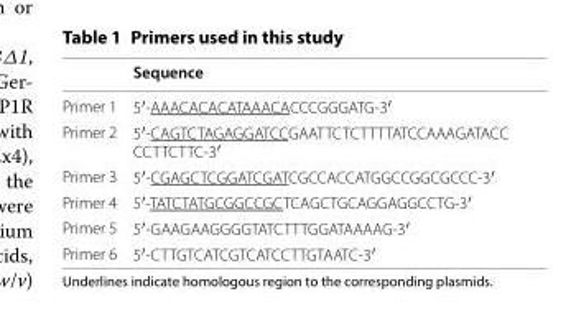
<table><thead><tr><td></td><td>Sequence</td></tr></thead><tbody><tr><td>Primer 1</td><td>5′-AAACACACATAAACACCCGGGATG-3′</td></tr><tr><td>Primer 2</td><td>5′-CAGTCTAGAGGATCCGAATTCTCTTTTATCCAAAGATACC CCTTCTTC-3′</td></tr><tr><td>Primer 3</td><td>5′-CGAGCTCGGATCGATCGCCACCATGGCCGGCGCCC-3′</td></tr><tr><td>Primer 4</td><td>5′-TATCTATGCGGCCGCTCAGCTGCAGGAGGCCTG-3′</td></tr><tr><td>Primer 5</td><td>5′-GAAGAAGGGGTATCTTTGGATAAAAG-3′</td></tr><tr><td>Primer 6</td><td>5′-CTTGTCATCGTCATCCTTGTAATC-3′</td></tr></tbody></table>